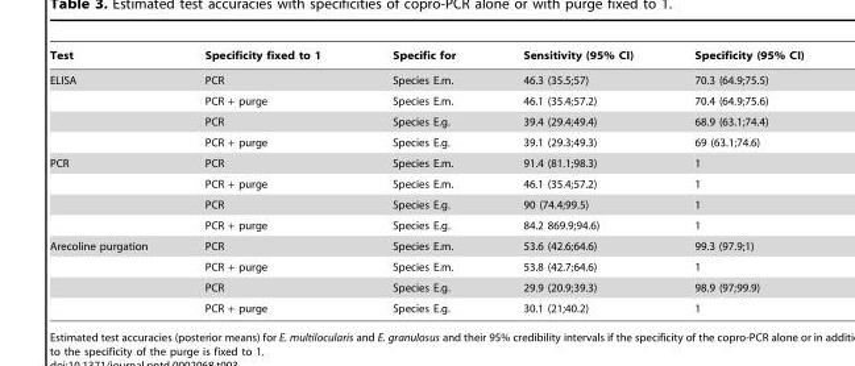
<table><thead><tr><td>Test</td><td>Specificity fixed to 1</td><td>Specific for</td><td>Sensitivity (95% CI)</td><td>Specificity (95% CI)</td></tr></thead><tbody><tr><td rowspan="4">ELISA</td><td>PCR</td><td>Species E.m.</td><td>46.3 (35.5;57)</td><td>70.3 (64.9;75.5)</td></tr><tr><td>PCR + purge</td><td>Species E.m.</td><td>46.1 (35.4;57.2)</td><td>70.4 (64.9;75.6)</td></tr><tr><td>PCR</td><td>Species E.g.</td><td>39.4 (29.4;49.4)</td><td>68.9 (63.1;74.4)</td></tr><tr><td>PCR + purge</td><td>Species E.g.</td><td>39.1 (29.3;49.3)</td><td>69 (63.1;74.6)</td></tr><tr><td rowspan="4">PCR</td><td>PCR</td><td>Species E.m.</td><td>91.4 (81.1;98.3)</td><td>1</td></tr><tr><td>PCR + purge</td><td>Species E.m.</td><td>46.1 (35.4;57.2)</td><td>1</td></tr><tr><td>PCR</td><td>Species E.g.</td><td>90 (74.4;99.5)</td><td>1</td></tr><tr><td>PCR + purge</td><td>Species E.g.</td><td>84.2 869.9;94.6)</td><td>1</td></tr><tr><td rowspan="4">Arecoline purgation</td><td>PCR</td><td>Species E.m.</td><td>53.6 (42.6;64.6)</td><td>99.3 (97.9;1)</td></tr><tr><td>PCR + purge</td><td>Species E.m.</td><td>53.8 (42.7;64.6)</td><td>1</td></tr><tr><td>PCR</td><td>Species E.g.</td><td>29.9 (20.9;39.3)</td><td>98.9 (97;99.9)</td></tr><tr><td>PCR + purge</td><td>Species E.g.</td><td>30.1 (21;40.2)</td><td>1</td></tr></tbody></table>